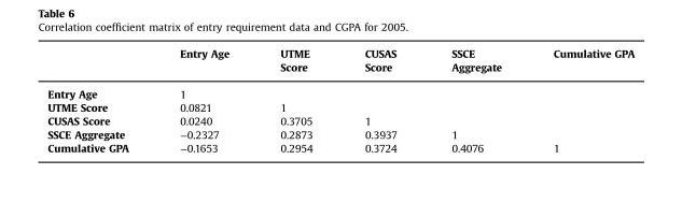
<table><thead><tr><td></td><td>Entry Age</td><td>UTME Score</td><td>CUSAS Score</td><td>SSCE Aggregate</td><td>Cumulative GPA</td></tr></thead><tbody><tr><td>Entry Age</td><td>1</td><td></td><td></td><td></td><td></td></tr><tr><td>UTME Score</td><td>0.0821</td><td>1</td><td></td><td></td><td></td></tr><tr><td>CUSAS Score</td><td>0.0240</td><td>0.3705</td><td>1</td><td></td><td></td></tr><tr><td>SSCE Aggregate</td><td>−0.2327</td><td>0.2873</td><td>0.3937</td><td>1</td><td></td></tr><tr><td>Cumulative GPA</td><td>−0.1653</td><td>0.2954</td><td>0.3724</td><td>0.4076</td><td>1</td></tr></tbody></table>